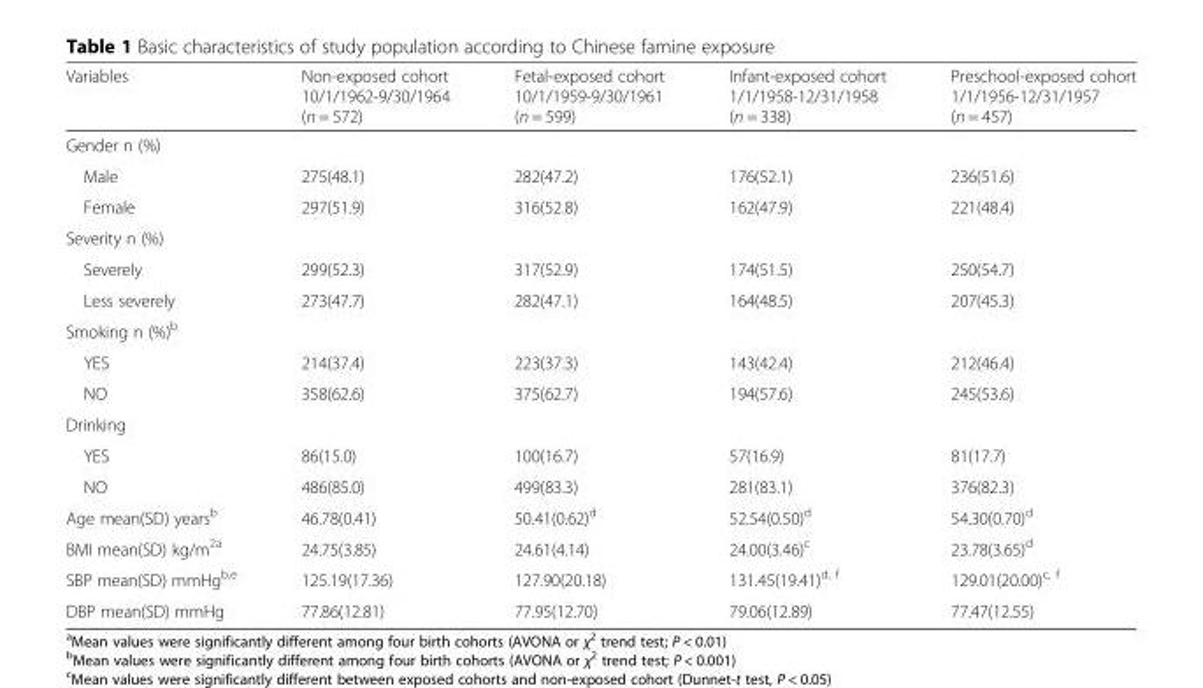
<table><thead><tr><td>Variables</td><td>Non-exposed cohort 10/1/1962-9/30/1964 (n = 572)</td><td>Fetal-exposed cohort 10/1/1959-9/30/1961 (n = 599)</td><td>Infant-exposed cohort 1/1/1958-12/31/1958 (n = 338)</td><td>Preschool-exposed cohort 1/1/1956-12/31/1957 (n = 457)</td></tr></thead><tbody><tr><td colspan="5">Gender n (%)</td></tr><tr><td>Male</td><td>275(48.1)</td><td>282(47.2)</td><td>176(52.1)</td><td>236(51.6)</td></tr><tr><td>Female</td><td>297(51.9)</td><td>316(52.8)</td><td>162(47.9)</td><td>221(48.4)</td></tr><tr><td colspan="5">Severity n (%)</td></tr><tr><td>Severely</td><td>299(52.3)</td><td>317(52.9)</td><td>174(51.5)</td><td>250(54.7)</td></tr><tr><td>Less severely</td><td>273(47.7)</td><td>282(47.1)</td><td>164(48.5)</td><td>207(45.3)</td></tr><tr><td colspan="5">Smoking n (%)<sup>b</sup></td></tr><tr><td>YES</td><td>214(37.4)</td><td>223(37.3)</td><td>143(42.4)</td><td>212(46.4)</td></tr><tr><td>NO</td><td>358(62.6)</td><td>375(62.7)</td><td>194(57.6)</td><td>245(53.6)</td></tr><tr><td colspan="5">Drinking</td></tr><tr><td>YES</td><td>86(15.0)</td><td>100(16.7)</td><td>57(16.9)</td><td>81(17.7)</td></tr><tr><td>NO</td><td>486(85.0)</td><td>499(83.3)</td><td>281(83.1)</td><td>376(82.3)</td></tr><tr><td>Age mean(SD) years<sup>b</sup></td><td>46.78(0.41)</td><td>50.41(0.62)<sup>d</sup></td><td>52.54(0.50)<sup>d</sup></td><td>54.30(0.70)<sup>d</sup></td></tr><tr><td>BMI mean(SD) kg/m<sup>2a</sup></td><td>24.75(3.85)</td><td>24.61(4.14)</td><td>24.00(3.46)<sup>c</sup></td><td>23.78(3.65)<sup>d</sup></td></tr><tr><td>SBP mean(SD) mmHg<sup>b,e</sup></td><td>125.19(17.36)</td><td>127.90(20.18)</td><td>131.45(19.41)<sup>d, f</sup></td><td>129.01(20.00)<sup>c, f</sup></td></tr><tr><td>DBP mean(SD) mmHg</td><td>77.86(12.81)</td><td>77.95(12.70)</td><td>79.06(12.89)</td><td>77.47(12.55)</td></tr></tbody></table>